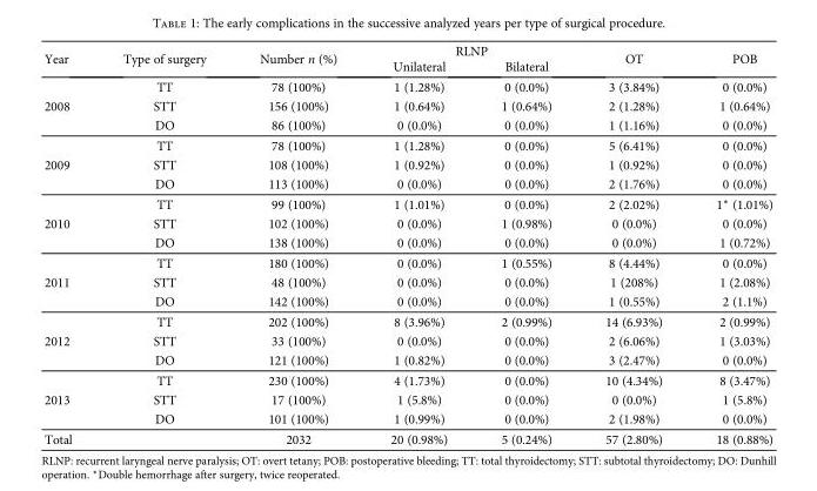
<table><thead><tr><td rowspan="2">Year</td><td rowspan="2">Type of surgery</td><td rowspan="2">Number n (%)</td><td colspan="2">RLNP</td><td rowspan="2">OT</td><td rowspan="2">POB</td></tr><tr><td>Unilateral</td><td>Bilateral</td></tr></thead><tbody><tr><td rowspan="3">2008</td><td>TT</td><td>78 (100%)</td><td>1 (1.28%)</td><td>0 (0.0%)</td><td>3 (3.84%)</td><td>0 (0.0%)</td></tr><tr><td>STT</td><td>156 (100%)</td><td>1 (0.64%)</td><td>1 (0.64%)</td><td>2 (1.28%)</td><td>1 (0.64%)</td></tr><tr><td>DO</td><td>86 (100%)</td><td>0 (0.0%)</td><td>0 (0.0%)</td><td>1 (1.16%)</td><td>0 (0.0%)</td></tr><tr><td rowspan="3">2009</td><td>TT</td><td>78 (100%)</td><td>1 (1.28%)</td><td>0 (0.0%)</td><td>5 (6.41%)</td><td>0 (0.0%)</td></tr><tr><td>STT</td><td>108 (100%)</td><td>1 (0.92%)</td><td>0 (0.0%)</td><td>1 (0.92%)</td><td>0 (0.0%)</td></tr><tr><td>DO</td><td>113 (100%)</td><td>0 (0.0%)</td><td>0 (0.0%)</td><td>2 (1.76%)</td><td>0 (0.0%)</td></tr><tr><td rowspan="3">2010</td><td>TT</td><td>99 (100%)</td><td>1 (1.01%)</td><td>0 (0.0%)</td><td>2 (2.02%)</td><td>1∗ (1.01%)</td></tr><tr><td>STT</td><td>102 (100%)</td><td>0 (0.0%)</td><td>1 (0.98%)</td><td>0 (0.0%)</td><td>0 (0.0%)</td></tr><tr><td>DO</td><td>138 (100%)</td><td>0 (0.0%)</td><td>0 (0.0%)</td><td>0 (0.0%)</td><td>1 (0.72%)</td></tr><tr><td rowspan="3">2011</td><td>TT</td><td>180 (100%)</td><td>0 (0.0%)</td><td>1 (0.55%)</td><td>8 (4.44%)</td><td>0 (0.0%)</td></tr><tr><td>STT</td><td>48 (100%)</td><td>0 (0.0%)</td><td>0 (0.0%)</td><td>1 (208%)</td><td>1 (2.08%)</td></tr><tr><td>DO</td><td>142 (100%)</td><td>0 (0.0%)</td><td>0 (0.0%)</td><td>1 (0.55%)</td><td>2 (1.1%)</td></tr><tr><td rowspan="3">2012</td><td>TT</td><td>202 (100%)</td><td>8 (3.96%)</td><td>2 (0.99%)</td><td>14 (6.93%)</td><td>2 (0.99%)</td></tr><tr><td>STT</td><td>33 (100%)</td><td>0 (0.0%)</td><td>0 (0.0%)</td><td>2 (6.06%)</td><td>1 (3.03%)</td></tr><tr><td>DO</td><td>121 (100%)</td><td>1 (0.82%)</td><td>0 (0.0%)</td><td>3 (2.47%)</td><td>0 (0.0%)</td></tr><tr><td rowspan="3">2013</td><td>TT</td><td>230 (100%)</td><td>4 (1.73%)</td><td>0 (0.0%)</td><td>10 (4.34%)</td><td>8 (3.47%)</td></tr><tr><td>STT</td><td>17 (100%)</td><td>1 (5.8%)</td><td>0 (0.0%)</td><td>0 (0.0%)</td><td>1 (5.8%)</td></tr><tr><td>DO</td><td>101 (100%)</td><td>1 (0.99%)</td><td>0 (0.0%)</td><td>2 (1.98%)</td><td>0 (0.0%)</td></tr><tr><td colspan="2">Total</td><td>2032</td><td>20 (0.98%)</td><td>5 (0.24%)</td><td>57 (2.80%)</td><td>18 (0.88%)</td></tr></tbody></table>